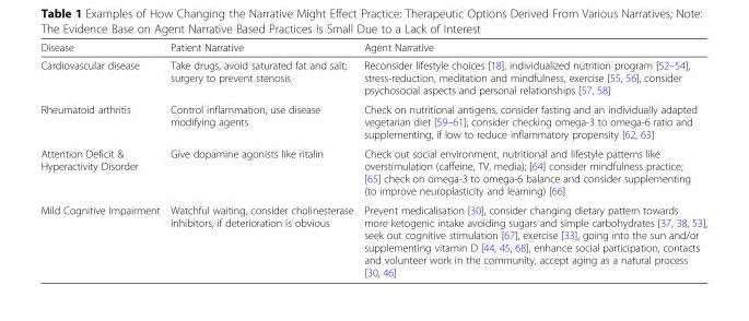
<table><thead><tr><td>Disease</td><td>Patient Narrative</td><td>Agent Narrative</td></tr></thead><tbody><tr><td>Cardiovascular disease</td><td>Take drugs, avoid saturated fat and salt; surgery to prevent stenosis</td><td>Reconsider lifestyle choices [18], individualized nutrition program [52–54], stress-reduction, meditation and mindfulness, exercise [55, 56], consider psychosocial aspects and personal relationships [57, 58]</td></tr><tr><td>Rheumatoid arthritis</td><td>Control inflammation, use disease modifying agents</td><td>Check on nutritional antigens, consider fasting and an individually adapted vegetarian diet [59–61]; consider checking omega-3 to omega-6 ratio and supplementing, if low to reduce inflammatory propensity [62, 63]</td></tr><tr><td>Attention Deficit &amp; Hyperactivity Disorder</td><td>Give dopamine agonists like ritalin</td><td>Check out social environment, nutritional and lifestyle patterns like overstimulation (caffeine, TV, media); [64] consider mindfulness practice; [65] check on omega-3 to omega-6 balance and consider supplementing (to improve neuroplasticity and learning) [66]</td></tr><tr><td>Mild Cognitive Impairment</td><td>Watchful waiting, consider cholinesterase inhibitors, if deterioration is obvious</td><td>Prevent medicalisation [30], consider changing dietary pattern towards more ketogenic intake avoiding sugars and simple carbohydrates [37, 38, 53], seek out cognitive stimulation [67], exercise [33], going into the sun and/or supplementing vitamin D [44, 45, 68], enhance social participation, contacts and volunteer work in the community, accept aging as a natural process [30, 46]</td></tr></tbody></table>